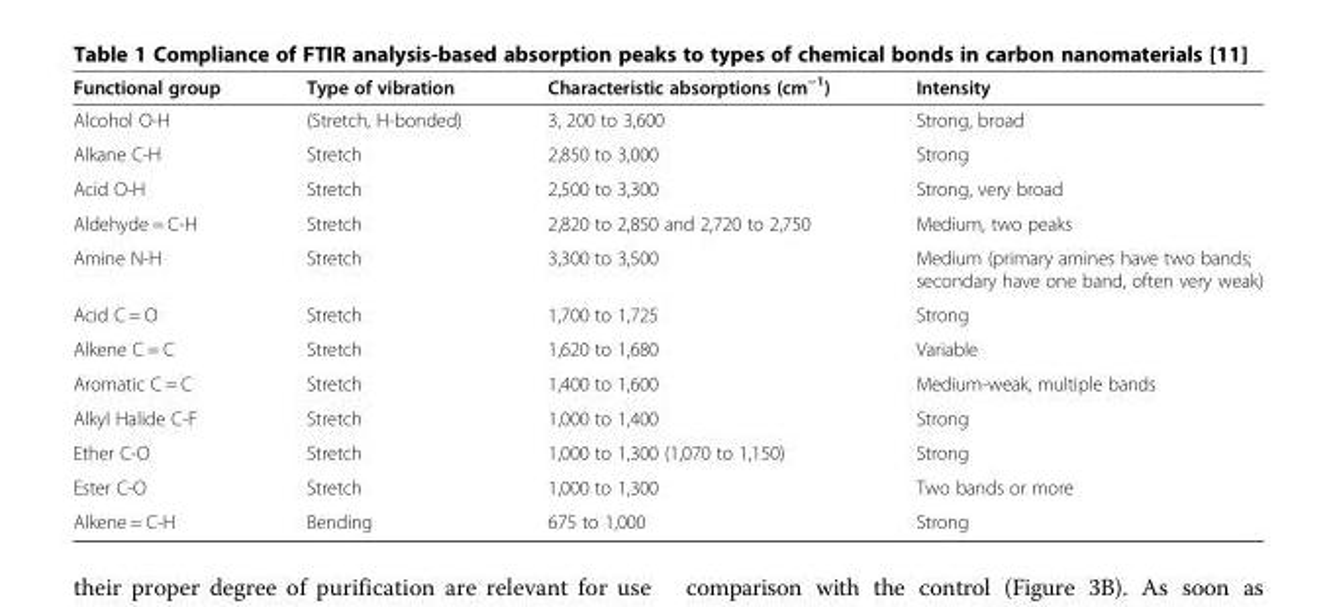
<table><thead><tr><td>Functional group</td><td>Type of vibration</td><td>Characteristic absorptions (cm<sup>−1</sup>)</td><td>Intensity</td></tr></thead><tbody><tr><td>Alcohol O-H</td><td>(Stretch, H-bonded)</td><td>3, 200 to 3,600</td><td>Strong, broad</td></tr><tr><td>Alkane C-H</td><td>Stretch</td><td>2,850 to 3,000</td><td>Strong</td></tr><tr><td>Acid O-H</td><td>Stretch</td><td>2,500 to 3,300</td><td>Strong, very broad</td></tr><tr><td>Aldehyde = C-H</td><td>Stretch</td><td>2,820 to 2,850 and 2,720 to 2,750</td><td>Medium, two peaks</td></tr><tr><td>Amine N-H</td><td>Stretch</td><td>3,300 to 3,500</td><td>Medium (primary amines have two bands; secondary have one band, often very weak)</td></tr><tr><td>Acid C = O</td><td>Stretch</td><td>1,700 to 1,725</td><td>Strong</td></tr><tr><td>Alkene C = C</td><td>Stretch</td><td>1,620 to 1,680</td><td>Variable</td></tr><tr><td>Aromatic C = C</td><td>Stretch</td><td>1,400 to 1,600</td><td>Medium-weak, multiple bands</td></tr><tr><td>Alkyl Halide C-F</td><td>Stretch</td><td>1,000 to 1,400</td><td>Strong</td></tr><tr><td>Ether C-O</td><td>Stretch</td><td>1,000 to 1,300 (1,070 to 1,150)</td><td>Strong</td></tr><tr><td>Ester C-O</td><td>Stretch</td><td>1,000 to 1,300</td><td>Two bands or more</td></tr><tr><td>Alkene = C-H</td><td>Bending</td><td>675 to 1,000</td><td>Strong</td></tr></tbody></table>